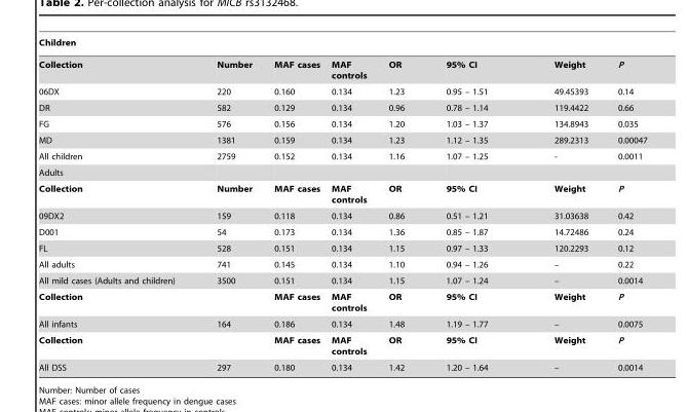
<table><thead><tr><td>Children</td><td></td><td></td><td></td><td></td><td></td><td></td><td></td></tr></thead><tbody><tr><td>Collection</td><td>Number</td><td>MAF cases</td><td>MAF controls</td><td>OR</td><td>95% CI</td><td>Weight</td><td>P</td></tr><tr><td>06DX</td><td>220</td><td>0.160</td><td>0.134</td><td>1.23</td><td>0.95 – 1.51</td><td>49.45393</td><td>0.14</td></tr><tr><td>DR</td><td>582</td><td>0.129</td><td>0.134</td><td>0.96</td><td>0.78 – 1.14</td><td>119.4422</td><td>0.66</td></tr><tr><td>FG</td><td>576</td><td>0.156</td><td>0.134</td><td>1.20</td><td>1.03 – 1.37</td><td>134.8943</td><td>0.035</td></tr><tr><td>MD</td><td>1381</td><td>0.159</td><td>0.134</td><td>1.23</td><td>1.12 – 1.35</td><td>289.2313</td><td>0.00047</td></tr><tr><td>All children</td><td>2759</td><td>0.152</td><td>0.134</td><td>1.16</td><td>1.07 – 1.25</td><td>-</td><td>0.0011</td></tr><tr><td colspan="8">Adults</td></tr><tr><td>Collection</td><td>Number</td><td>MAF cases</td><td>MAF controls</td><td>OR</td><td>95% CI</td><td>Weight</td><td>P</td></tr><tr><td>09DX2</td><td>159</td><td>0.118</td><td>0.134</td><td>0.86</td><td>0.51 – 1.21</td><td>31.03638</td><td>0.42</td></tr><tr><td>D001</td><td>54</td><td>0.173</td><td>0.134</td><td>1.36</td><td>0.85 – 1.87</td><td>14.72486</td><td>0.24</td></tr><tr><td>FL</td><td>528</td><td>0.151</td><td>0.134</td><td>1.15</td><td>0.97 – 1.33</td><td>120.2293</td><td>0.12</td></tr><tr><td>All adults</td><td>741</td><td>0.145</td><td>0.134</td><td>1.10</td><td>0.94 – 1.26</td><td>–</td><td>0.22</td></tr><tr><td>All mild cases (Adults and children)</td><td>3500</td><td>0.151</td><td>0.134</td><td>1.15</td><td>1.07 – 1.24</td><td>–</td><td>0.0014</td></tr><tr><td>Collection</td><td></td><td>MAF cases</td><td>MAF controls</td><td>OR</td><td>95% CI</td><td>Weight</td><td>P</td></tr><tr><td>All infants</td><td>164</td><td>0.186</td><td>0.134</td><td>1.48</td><td>1.19 – 1.77</td><td>–</td><td>0.0075</td></tr><tr><td>Collection</td><td></td><td>MAF cases</td><td>MAF controls</td><td>OR</td><td>95% CI</td><td>Weight</td><td>P</td></tr><tr><td>All DSS</td><td>297</td><td>0.180</td><td>0.134</td><td>1.42</td><td>1.20 – 1.64</td><td>–</td><td>0.0014</td></tr></tbody></table>